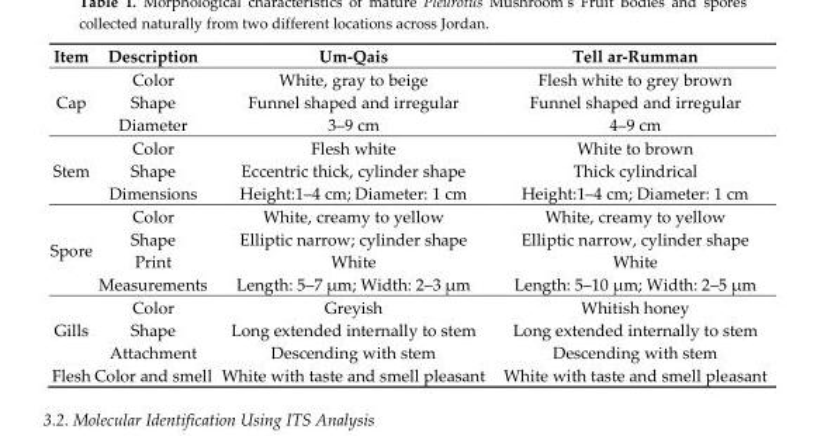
<table><thead><tr><td>Item</td><td>Description</td><td>Um-Qais</td><td>Tell ar-Rumman</td></tr></thead><tbody><tr><td rowspan="3">Cap</td><td>Color</td><td>White, gray to beige</td><td>Flesh white to grey brown</td></tr><tr><td>Shape</td><td>Funnel shaped and irregular</td><td>Funnel shaped and irregular</td></tr><tr><td>Diameter</td><td>3–9 cm</td><td>4–9 cm</td></tr><tr><td rowspan="3">Stem</td><td>Color</td><td>Flesh white</td><td>White to brown</td></tr><tr><td>Shape</td><td>Eccentric thick, cylinder shape</td><td>Thick cylindrical</td></tr><tr><td>Dimensions</td><td>Height:1–4 cm; Diameter: 1 cm</td><td>Height:1–4 cm; Diameter: 1 cm</td></tr><tr><td rowspan="4">Spore</td><td>Color</td><td>White, creamy to yellow</td><td>White, creamy to yellow</td></tr><tr><td>Shape</td><td>Elliptic narrow; cylinder shape</td><td>Elliptic narrow, cylinder shape</td></tr><tr><td>Print</td><td>White</td><td>White</td></tr><tr><td>Measurements</td><td>Length: 5–7 µm; Width: 2–3 µm</td><td>Length: 5–10 µm; Width: 2–5 µm</td></tr><tr><td rowspan="3">Gills</td><td>Color</td><td>Greyish</td><td>Whitish honey</td></tr><tr><td>Shape</td><td>Long extended internally to stem</td><td>Long extended internally to stem</td></tr><tr><td>Attachment</td><td>Descending with stem</td><td>Descending with stem</td></tr><tr><td>Flesh</td><td>Color and smell</td><td>White with taste and smell pleasant</td><td>White with taste and smell pleasant</td></tr></tbody></table>